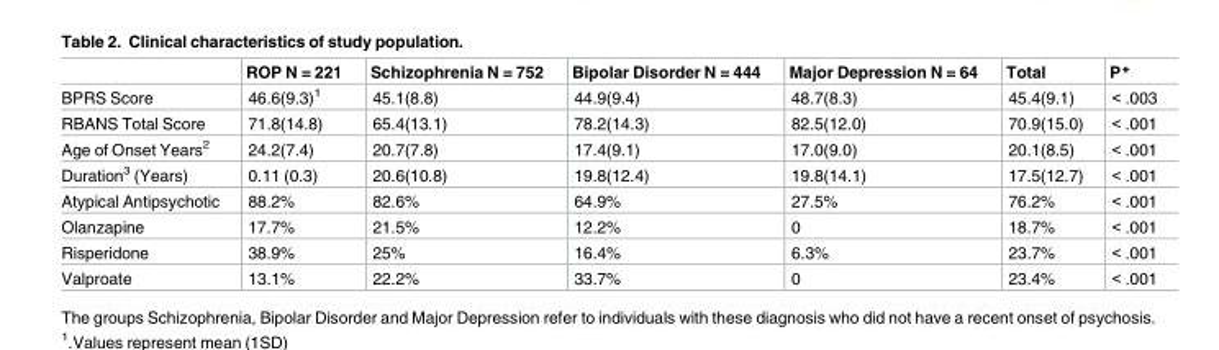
<table><thead><tr><td></td><td>ROP N = 221</td><td>Schizophrenia N = 752</td><td>Bipolar Disorder N = 444</td><td>Major Depression N = 64</td><td>Total</td><td>P*</td></tr></thead><tbody><tr><td>BPRS Score</td><td>46.6(9.3)<sup>1</sup></td><td>45.1(8.8)</td><td>44.9(9.4)</td><td>48.7(8.3)</td><td>45.4(9.1)</td><td>&lt; .003</td></tr><tr><td>RBANS Total Score</td><td>71.8(14.8)</td><td>65.4(13.1)</td><td>78.2(14.3)</td><td>82.5(12.0)</td><td>70.9(15.0)</td><td>&lt; .001</td></tr><tr><td>Age of Onset Years<sup>2</sup></td><td>24.2(7.4)</td><td>20.7(7.8)</td><td>17.4(9.1)</td><td>17.0(9.0)</td><td>20.1(8.5)</td><td>&lt; .001</td></tr><tr><td>Duration<sup>3</sup> (Years)</td><td>0.11 (0.3)</td><td>20.6(10.8)</td><td>19.8(12.4)</td><td>19.8(14.1)</td><td>17.5(12.7)</td><td>&lt; .001</td></tr><tr><td>Atypical Antipsychotic</td><td>88.2%</td><td>82.6%</td><td>64.9%</td><td>27.5%</td><td>76.2%</td><td>&lt; .001</td></tr><tr><td>Olanzapine</td><td>17.7%</td><td>21.5%</td><td>12.2%</td><td>0</td><td>18.7%</td><td>&lt; .001</td></tr><tr><td>Risperidone</td><td>38.9%</td><td>25%</td><td>16.4%</td><td>6.3%</td><td>23.7%</td><td>&lt; .001</td></tr><tr><td>Valproate</td><td>13.1%</td><td>22.2%</td><td>33.7%</td><td>0</td><td>23.4%</td><td>&lt; .001</td></tr></tbody></table>